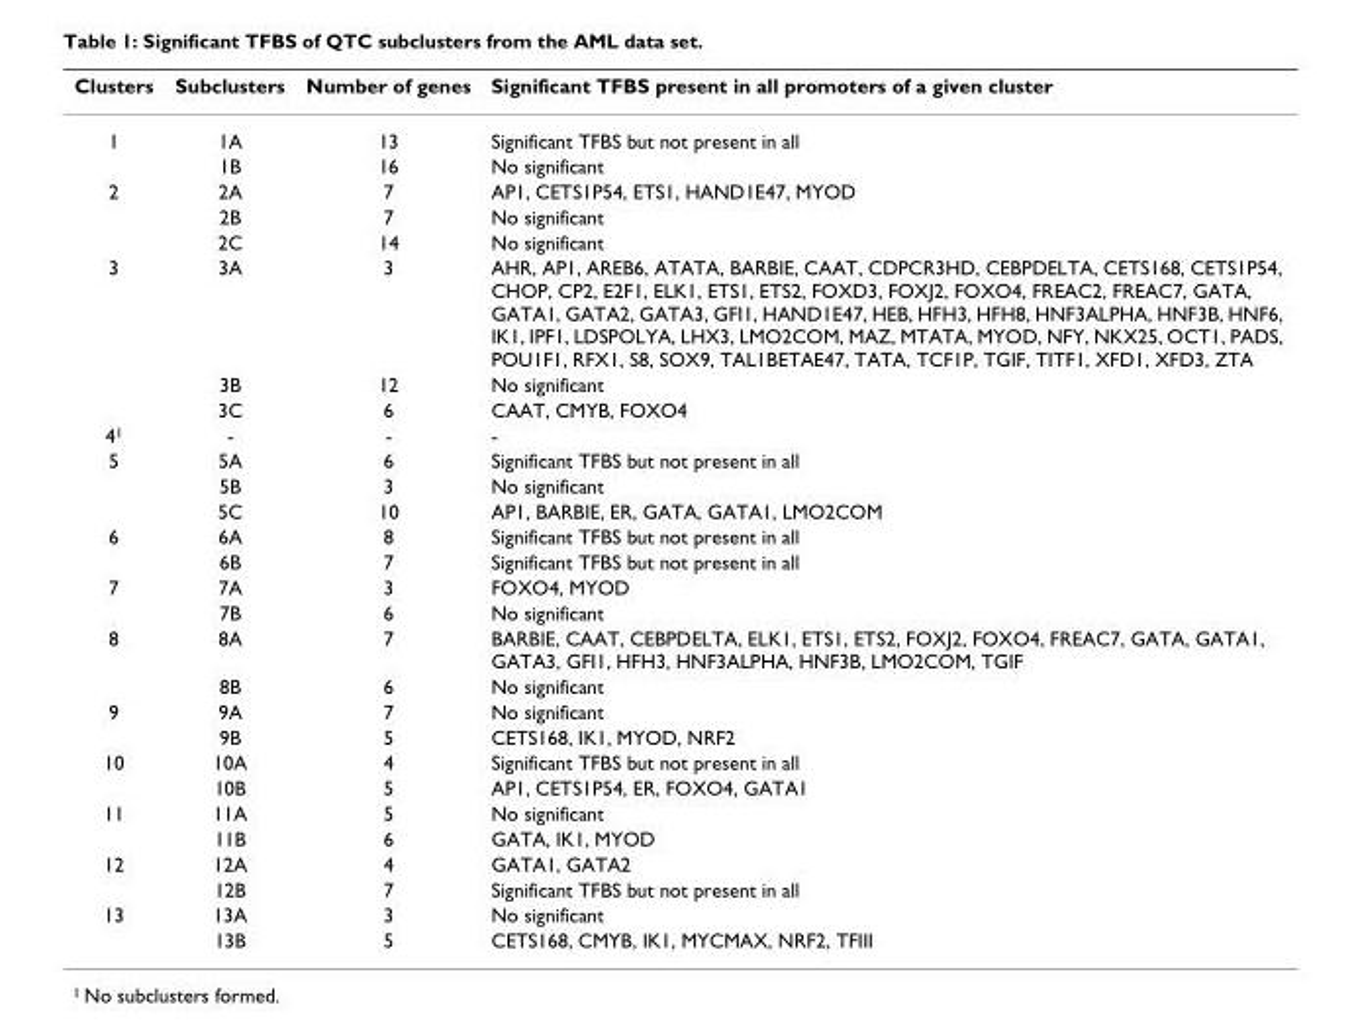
<table><thead><tr><td>Clusters</td><td>Subclusters</td><td>Number of genes</td><td>Significant TFBS present in all promoters of a given cluster</td></tr></thead><tbody><tr><td rowspan="2">1</td><td>1A</td><td>13</td><td>Significant TFBS but not present in all</td></tr><tr><td>1B</td><td>16</td><td>No significant</td></tr><tr><td rowspan="3">2</td><td>2A</td><td>7</td><td>AP1, CETS1P54, ETS1, HAND1E47, MYOD</td></tr><tr><td>2B</td><td>7</td><td>No significant</td></tr><tr><td>2C</td><td>14</td><td>No significant</td></tr><tr><td rowspan="3">3</td><td>3A</td><td>3</td><td>AHR, AP1, AREB6, ATATA, BARBIE, CAAT, CDPCR3HD, CEBPDELTA, CETS168, CETS1P54, CHOP, CP2, E2F1, ELK1, ETS1, ETS2, FOXD3, FOXJ2, FOXO4, FREAC2, FREAC7, GATA, GATA1, GATA2, GATA3, GFI1, HAND1E47, HEB, HFH3, HFH8, HNF3ALPHA, HNF3B, HNF6, IK1, IPF1, LDSPOLYA, LHX3, LMO2COM, MAZ, MTATA, MYOD, NFY, NKX25, OCT1, PADS, POU1F1, RFX1, S8, SOX9, TAL1BETAE47, TATA, TCF1P, TGIF, TITF1, XFD1, XFD3, ZTA</td></tr><tr><td>3B</td><td>12</td><td>No significant</td></tr><tr><td>3C</td><td>6</td><td>CAAT, CMYB, FOXO4</td></tr><tr><td>41</td><td>-</td><td>-</td><td>-</td></tr><tr><td rowspan="3">5</td><td>5A</td><td>6</td><td>Significant TFBS but not present in all</td></tr><tr><td>5B</td><td>3</td><td>No significant</td></tr><tr><td>5C</td><td>10</td><td>AP1, BARBIE, ER, GATA, GATA1, LMO2COM</td></tr><tr><td rowspan="2">6</td><td>6A</td><td>8</td><td>Significant TFBS but not present in all</td></tr><tr><td>6B</td><td>7</td><td>Significant TFBS but not present in all</td></tr><tr><td rowspan="2">7</td><td>7A</td><td>3</td><td>FOXO4, MYOD</td></tr><tr><td>7B</td><td>6</td><td>No significant</td></tr><tr><td rowspan="2">8</td><td>8A</td><td>7</td><td>BARBIE, CAAT, CEBPDELTA, ELK1, ETS1, ETS2, FOXJ2, FOXO4, FREAC7, GATA, GATA1, GATA3, GFI1, HFH3, HNF3ALPHA, HNF3B, LMO2COM, TGIF</td></tr><tr><td>8B</td><td>6</td><td>No significant</td></tr><tr><td rowspan="2">9</td><td>9A</td><td>7</td><td>No significant</td></tr><tr><td>9B</td><td>5</td><td>CETS168, IK1, MYOD, NRF2</td></tr><tr><td rowspan="2">10</td><td>10A</td><td>4</td><td>Significant TFBS but not present in all</td></tr><tr><td>10B</td><td>5</td><td>AP1, CETS1P54, ER, FOXO4, GATA1</td></tr><tr><td rowspan="2">11</td><td>11A</td><td>5</td><td>No significant</td></tr><tr><td>11B</td><td>6</td><td>GATA, IK1, MYOD</td></tr><tr><td rowspan="2">12</td><td>12A</td><td>4</td><td>GATA1, GATA2</td></tr><tr><td>12B</td><td>7</td><td>Significant TFBS but not present in all</td></tr><tr><td rowspan="2">13</td><td>13A</td><td>3</td><td>No significant</td></tr><tr><td>13B</td><td>5</td><td>CETS168, CMYB, IK1, MYCMAX, NRF2, TFIII</td></tr></tbody></table>